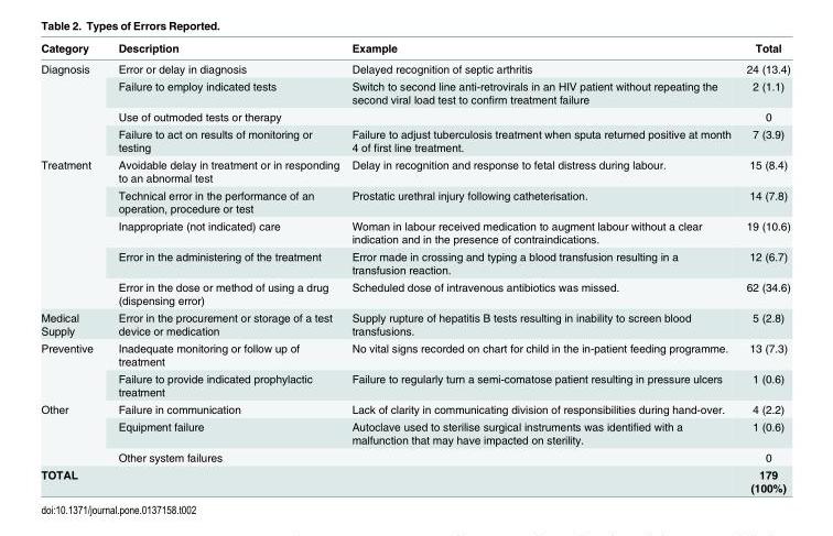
<table><thead><tr><td>Category</td><td>Description</td><td>Example</td><td>Total</td></tr></thead><tbody><tr><td rowspan="4">Diagnosis</td><td>Error or delay in diagnosis</td><td>Delayed recognition of septic arthritis</td><td>24 (13.4)</td></tr><tr><td>Failure to employ indicated tests</td><td>Switch to second line anti-retrovirals in an HIV patient without repeating the second viral load test to confirm treatment failure</td><td>2 (1.1)</td></tr><tr><td>Use of outmoded tests or therapy</td><td></td><td>0</td></tr><tr><td>Failure to act on results of monitoring or testing</td><td>Failure to adjust tuberculosis treatment when sputa returned positive at month 4 of first line treatment.</td><td>7 (3.9)</td></tr><tr><td rowspan="5">Treatment</td><td>Avoidable delay in treatment or in responding to an abnormal test</td><td>Delay in recognition and response to fetal distress during labour.</td><td>15 (8.4)</td></tr><tr><td>Technical error in the performance of an operation, procedure or test</td><td>Prostatic urethral injury following catheterisation.</td><td>14 (7.8)</td></tr><tr><td>Inappropriate (not indicated) care</td><td>Woman in labour received medication to augment labour without a clear indication and in the presence of contraindications.</td><td>19 (10.6)</td></tr><tr><td>Error in the administering of the treatment</td><td>Error made in crossing and typing a blood transfusion resulting in a transfusion reaction.</td><td>12 (6.7)</td></tr><tr><td>Error in the dose or method of using a drug (dispensing error)</td><td>Scheduled dose of intravenous antibiotics was missed.</td><td>62 (34.6)</td></tr><tr><td>Medical Supply</td><td>Error in the procurement or storage of a test device or medication</td><td>Supply rupture of hepatitis B tests resulting in inability to screen blood transfusions.</td><td>5 (2.8)</td></tr><tr><td rowspan="2">Preventive</td><td>Inadequate monitoring or follow up of treatment</td><td>No vital signs recorded on chart for child in the in-patient feeding programme.</td><td>13 (7.3)</td></tr><tr><td>Failure to provide indicated prophylactic treatment</td><td>Failure to regularly turn a semi-comatose patient resulting in pressure ulcers</td><td>1 (0.6)</td></tr><tr><td rowspan="3">Other</td><td>Failure in communication</td><td>Lack of clarity in communicating division of responsibilities during hand-over.</td><td>4 (2.2)</td></tr><tr><td>Equipment failure</td><td>Autoclave used to sterilise surgical instruments was identified with a malfunction that may have impacted on sterility.</td><td>1 (0.6)</td></tr><tr><td>Other system failures</td><td></td><td>0</td></tr><tr><td>TOTAL</td><td></td><td></td><td>179 (100%)</td></tr></tbody></table>